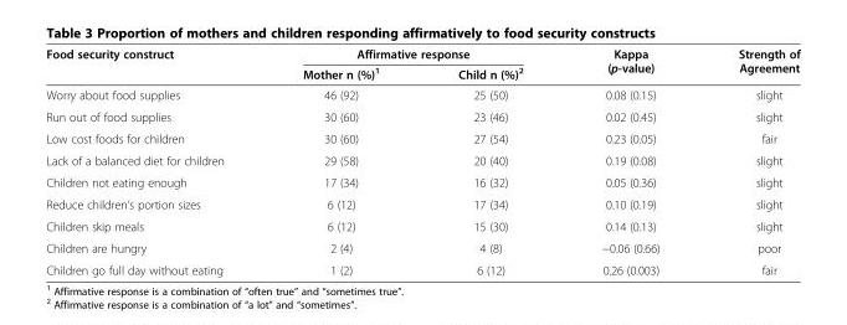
<table><thead><tr><td rowspan="2">Food security construct</td><td colspan="2">Affirmative response</td><td rowspan="2">Kappa (p-value)</td><td rowspan="2">Strength of Agreement</td></tr><tr><td>Mother n (%)<sup>1</sup></td><td>Child n (%)<sup>2</sup></td></tr></thead><tbody><tr><td>Worry about food supplies</td><td>46 (92)</td><td>25 (50)</td><td>0.08 (0.15)</td><td>slight</td></tr><tr><td>Run out of food supplies</td><td>30 (60)</td><td>23 (46)</td><td>0.02 (0.45)</td><td>slight</td></tr><tr><td>Low cost foods for children</td><td>30 (60)</td><td>27 (54)</td><td>0.23 (0.05)</td><td>fair</td></tr><tr><td>Lack of a balanced diet for children</td><td>29 (58)</td><td>20 (40)</td><td>0.19 (0.08)</td><td>slight</td></tr><tr><td>Children not eating enough</td><td>17 (34)</td><td>16 (32)</td><td>0.05 (0.36)</td><td>slight</td></tr><tr><td>Reduce children’s portion sizes</td><td>6 (12)</td><td>17 (34)</td><td>0.10 (0.19)</td><td>slight</td></tr><tr><td>Children skip meals</td><td>6 (12)</td><td>15 (30)</td><td>0.14 (0.13)</td><td>slight</td></tr><tr><td>Children are hungry</td><td>2 (4)</td><td>4 (8)</td><td>−0.06 (0.66)</td><td>poor</td></tr><tr><td>Children go full day without eating</td><td>1 (2)</td><td>6 (12)</td><td>0.26 (0.003)</td><td>fair</td></tr></tbody></table>